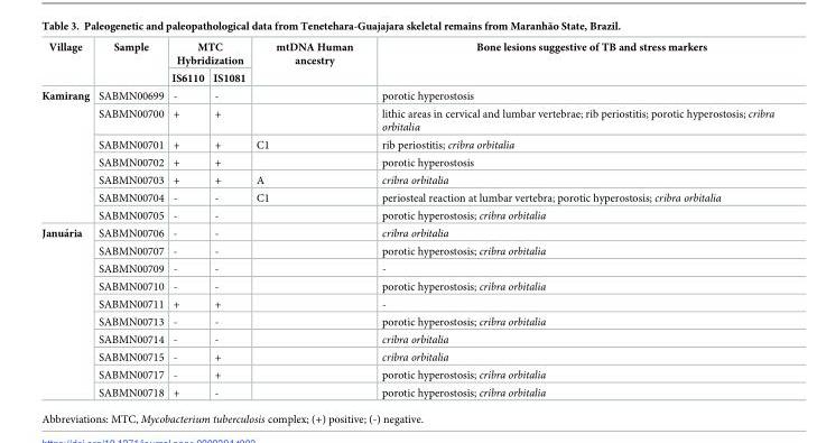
<table><thead><tr><td rowspan="2">Village</td><td rowspan="2">Sample</td><td colspan="2">MTC Hybridization</td><td rowspan="2">mtDNA Human ancestry</td><td rowspan="2">Bone lesions suggestive of TB and stress markers</td></tr><tr><td>IS6110</td><td>IS1081</td></tr></thead><tbody><tr><td rowspan="7">Kamirang</td><td>SABMN00699</td><td>-</td><td>-</td><td></td><td>porotic hyperostosis</td></tr><tr><td>SABMN00700</td><td>+</td><td>+</td><td></td><td>lithic areas in cervical and lumbar vertebrae; rib periostitis; porotic hyperostosis; cribra orbitalia</td></tr><tr><td>SABMN00701</td><td>+</td><td>+</td><td>C1</td><td>rib periostitis; cribra orbitalia</td></tr><tr><td>SABMN00702</td><td>+</td><td>+</td><td></td><td>porotic hyperostosis</td></tr><tr><td>SABMN00703</td><td>+</td><td>+</td><td>A</td><td>cribra orbitalia</td></tr><tr><td>SABMN00704</td><td>-</td><td>-</td><td>C1</td><td>periosteal reaction at lumbar vertebra; porotic hyperostosis; cribra orbitalia</td></tr><tr><td>SABMN00705</td><td>-</td><td>-</td><td></td><td>porotic hyperostosis; cribra orbitalia</td></tr><tr><td rowspan="10">Janua´ria</td><td>SABMN00706</td><td>-</td><td>-</td><td></td><td>cribra orbitalia</td></tr><tr><td>SABMN00707</td><td>-</td><td>-</td><td></td><td>porotic hyperostosis; cribra orbitalia</td></tr><tr><td>SABMN00709</td><td>-</td><td>-</td><td></td><td>-</td></tr><tr><td>SABMN00710</td><td>-</td><td>-</td><td></td><td>porotic hyperostosis; cribra orbitalia</td></tr><tr><td>SABMN00711</td><td>+</td><td>+</td><td></td><td>-</td></tr><tr><td>SABMN00713</td><td>-</td><td>-</td><td></td><td>porotic hyperostosis; cribra orbitalia</td></tr><tr><td>SABMN00714</td><td>-</td><td>-</td><td></td><td>cribra orbitalia</td></tr><tr><td>SABMN00715</td><td>-</td><td>+</td><td></td><td>cribra orbitalia</td></tr><tr><td>SABMN00717</td><td>-</td><td>+</td><td></td><td>porotic hyperostosis; cribra orbitalia</td></tr><tr><td>SABMN00718</td><td>+</td><td>-</td><td></td><td>porotic hyperostosis; cribra orbitalia</td></tr></tbody></table>